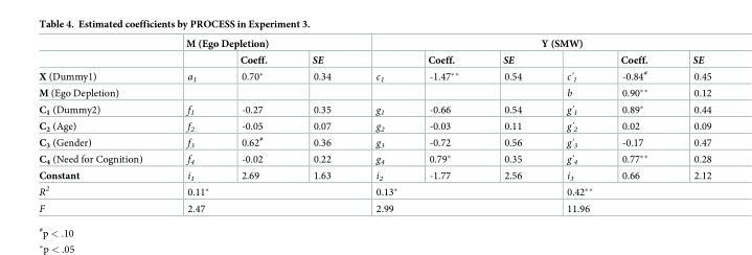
<table><thead><tr><td rowspan="2"></td><td colspan="3">M (Ego Depletion)</td><td colspan="6">Y (SMW)</td></tr><tr><td></td><td>Coeff.</td><td>SE</td><td></td><td>Coeff.</td><td>SE</td><td></td><td>Coeff.</td><td>SE</td></tr></thead><tbody><tr><td>X (Dummy1)</td><td>a<sub>1</sub></td><td>0.70*</td><td>0.34</td><td>c<sub>1</sub></td><td>-1.47**</td><td>0.54</td><td>c&#x27;<sub>1</sub></td><td>-0.84<sup>#</sup></td><td>0.45</td></tr><tr><td>M (Ego Depletion)</td><td></td><td></td><td></td><td></td><td></td><td></td><td>b</td><td>0.90**</td><td>0.12</td></tr><tr><td>C<sub>1</sub> (Dummy2)</td><td>f<sub>1</sub></td><td>-0.27</td><td>0.35</td><td>g<sub>1</sub></td><td>-0.66</td><td>0.54</td><td>g&#x27;<sub>1</sub></td><td>0.89*</td><td>0.44</td></tr><tr><td>C<sub>2</sub> (Age)</td><td>f<sub>2</sub></td><td>-0.05</td><td>0.07</td><td>g<sub>2</sub></td><td>-0.03</td><td>0.11</td><td>g&#x27;<sub>2</sub></td><td>0.02</td><td>0.09</td></tr><tr><td>C<sub>3</sub> (Gender)</td><td>f<sub>3</sub></td><td>0.62<sup>#</sup></td><td>0.36</td><td>g<sub>3</sub></td><td>-0.72</td><td>0.56</td><td>g&#x27;<sub>3</sub></td><td>-0.17</td><td>0.47</td></tr><tr><td>C<sub>4</sub> (Need for Cognition)</td><td>f<sub>4</sub></td><td>-0.02</td><td>0.22</td><td>g<sub>4</sub></td><td>0.79*</td><td>0.35</td><td>g&#x27;<sub>4</sub></td><td>0.77**</td><td>0.28</td></tr><tr><td>Constant</td><td>i<sub>1</sub></td><td>2.69</td><td>1.63</td><td>i<sub>2</sub></td><td>-1.77</td><td>2.56</td><td>i<sub>3</sub></td><td>0.66</td><td>2.12</td></tr><tr><td>R<sup>2</sup></td><td colspan="3">0.11*</td><td colspan="3">0.13*</td><td colspan="3">0.42**</td></tr><tr><td>F</td><td colspan="3">2.47</td><td colspan="3">2.99</td><td colspan="3">11.96</td></tr></tbody></table>